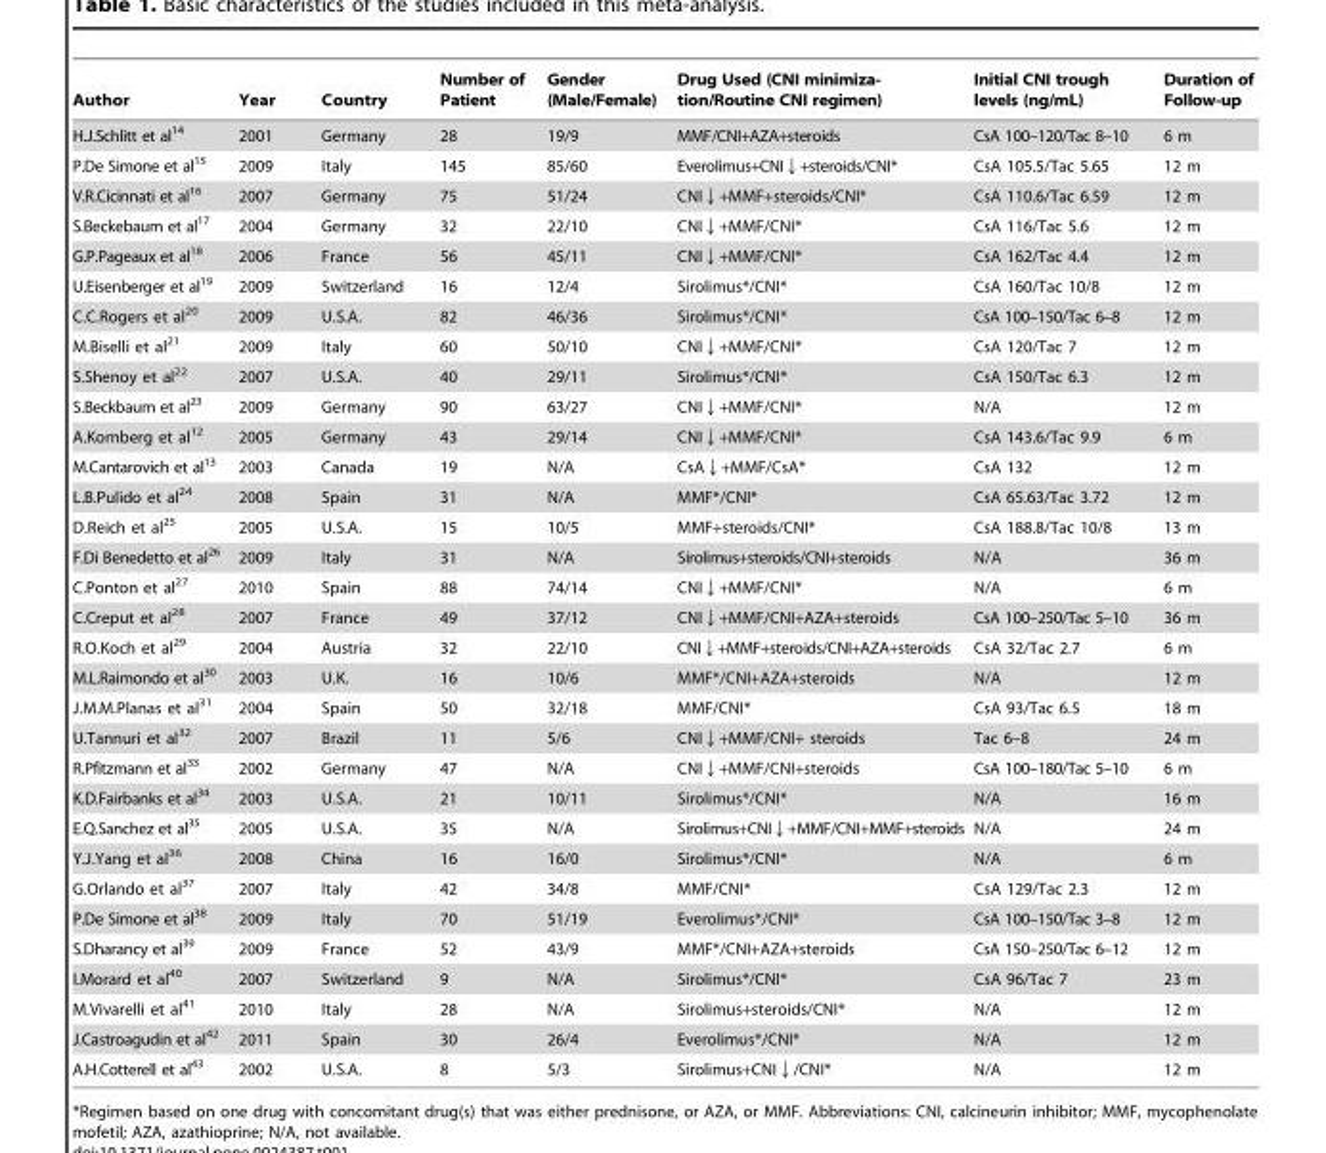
<table><thead><tr><td>Author</td><td>Year</td><td>Country</td><td>Number of Patient</td><td>Gender (Male/Female)</td><td>Drug Used (CNI minimiza- tion/Routine CNI regimen)</td><td>Initial CNI trough levels (ng/mL)</td><td>Duration of Follow-up</td></tr></thead><tbody><tr><td>H.J.Schlitt et al<sup>14</sup></td><td>2001</td><td>Germany</td><td>28</td><td>19/9</td><td>MMF/CNI+AZA+steroids</td><td>CsA 100–120/Tac 8–10</td><td>6 m</td></tr><tr><td>P.De Simone et al<sup>15</sup></td><td>2009</td><td>Italy</td><td>145</td><td>85/60</td><td>Everolimus+CNI↓+steroids/CNI*</td><td>CsA 105.5/Tac 5.65</td><td>12 m</td></tr><tr><td>V.R.Cicinnati et al<sup>16</sup></td><td>2007</td><td>Germany</td><td>75</td><td>51/24</td><td>CNI↓+MMF+steroids/CNI*</td><td>CsA 110.6/Tac 6.59</td><td>12 m</td></tr><tr><td>S.Beckebaum et al<sup>17</sup></td><td>2004</td><td>Germany</td><td>32</td><td>22/10</td><td>CNI↓+MMF/CNI*</td><td>CsA 116/Tac 5.6</td><td>12 m</td></tr><tr><td>G.P.Pageaux et al<sup>18</sup></td><td>2006</td><td>France</td><td>56</td><td>45/11</td><td>CNI↓+MMF/CNI*</td><td>CsA 162/Tac 4.4</td><td>12 m</td></tr><tr><td>U.Eisenberger et al<sup>19</sup></td><td>2009</td><td>Switzerland</td><td>16</td><td>12/4</td><td>Sirolimus*/CNI*</td><td>CsA 160/Tac 10/8</td><td>12 m</td></tr><tr><td>C.C.Rogers et al<sup>20</sup></td><td>2009</td><td>U.S.A.</td><td>82</td><td>46/36</td><td>Sirolimus*/CNI*</td><td>CsA 100–150/Tac 6–8</td><td>12 m</td></tr><tr><td>M.Biselli et al<sup>21</sup></td><td>2009</td><td>Italy</td><td>60</td><td>50/10</td><td>CNI↓+MMF/CNI*</td><td>CsA 120/Tac 7</td><td>12 m</td></tr><tr><td>S.Shenoy et al<sup>22</sup></td><td>2007</td><td>U.S.A.</td><td>40</td><td>29/11</td><td>Sirolimus*/CNI*</td><td>CsA 150/Tac 6.3</td><td>12 m</td></tr><tr><td>S.Beckbaum et al<sup>23</sup></td><td>2009</td><td>Germany</td><td>90</td><td>63/27</td><td>CNI↓+MMF/CNI*</td><td>N/A</td><td>12 m</td></tr><tr><td>A.Kornberg et al<sup>12</sup></td><td>2005</td><td>Germany</td><td>43</td><td>29/14</td><td>CNI↓+MMF/CNI*</td><td>CsA 143.6/Tac 9.9</td><td>6 m</td></tr><tr><td>M.Cantarovich et al<sup>13</sup></td><td>2003</td><td>Canada</td><td>19</td><td>N/A</td><td>CsA↓+MMF/CsA*</td><td>CsA 132</td><td>12 m</td></tr><tr><td>L.B.Pulido et al<sup>24</sup></td><td>2008</td><td>Spain</td><td>31</td><td>N/A</td><td>MMF*/CNI*</td><td>CsA 65.63/Tac 3.72</td><td>12 m</td></tr><tr><td>D.Reich et al<sup>25</sup></td><td>2005</td><td>U.S.A.</td><td>15</td><td>10/5</td><td>MMF+steroids/CNI*</td><td>CsA 188.8/Tac 10/8</td><td>13 m</td></tr><tr><td>F.Di Benedetto et al<sup>26</sup></td><td>2009</td><td>Italy</td><td>31</td><td>N/A</td><td>Sirolimus+steroids/CNI+steroids</td><td>N/A</td><td>36 m</td></tr><tr><td>C.Ponton et al<sup>27</sup></td><td>2010</td><td>Spain</td><td>88</td><td>74/14</td><td>CNI↓+MMF/CNI*</td><td>N/A</td><td>6 m</td></tr><tr><td>C.Creput et al<sup>28</sup></td><td>2007</td><td>France</td><td>49</td><td>37/12</td><td>CNI↓+MMF/CNI+AZA+steroids</td><td>CsA 100–250/Tac 5–10</td><td>36 m</td></tr><tr><td>R.O.Koch et al<sup>29</sup></td><td>2004</td><td>Austria</td><td>32</td><td>22/10</td><td>CNI↓+MMF+steroids/CNI+AZA+steroids</td><td>CsA 32/Tac 2.7</td><td>6 m</td></tr><tr><td>M.L.Raimondo et al<sup>30</sup></td><td>2003</td><td>U.K.</td><td>16</td><td>10/6</td><td>MMF*/CNI+AZA+steroids</td><td>N/A</td><td>12 m</td></tr><tr><td>J.M.M.Planas et al<sup>31</sup></td><td>2004</td><td>Spain</td><td>50</td><td>32/18</td><td>MMF/CNI*</td><td>CsA 93/Tac 6.5</td><td>18 m</td></tr><tr><td>U.Tannuri et al<sup>32</sup></td><td>2007</td><td>Brazil</td><td>11</td><td>5/6</td><td>CNI↓+MMF/CNI+ steroids</td><td>Tac 6–8</td><td>24 m</td></tr><tr><td>R.Pfitzmann et al<sup>33</sup></td><td>2002</td><td>Germany</td><td>47</td><td>N/A</td><td>CNI↓+MMF/CNI+steroids</td><td>CsA 100–180/Tac 5–10</td><td>6 m</td></tr><tr><td>K.D.Fairbanks et al<sup>34</sup></td><td>2003</td><td>U.S.A.</td><td>21</td><td>10/11</td><td>Sirolimus*/CNI*</td><td>N/A</td><td>16 m</td></tr><tr><td>E.Q.Sanchez et al<sup>35</sup></td><td>2005</td><td>U.S.A.</td><td>35</td><td>N/A</td><td>Sirolimus+CNI↓+MMF/CNI+MMF+steroids</td><td>N/A</td><td>24 m</td></tr><tr><td>Y.J.Yang et al<sup>36</sup></td><td>2008</td><td>China</td><td>16</td><td>16/0</td><td>Sirolimus*/CNI*</td><td>N/A</td><td>6 m</td></tr><tr><td>G.Orlando et al<sup>37</sup></td><td>2007</td><td>Italy</td><td>42</td><td>34/8</td><td>MMF/CNI*</td><td>CsA 129/Tac 2.3</td><td>12 m</td></tr><tr><td>P.De Simone et al<sup>38</sup></td><td>2009</td><td>Italy</td><td>70</td><td>51/19</td><td>Everolimus*/CNI*</td><td>CsA 100–150/Tac 3–8</td><td>12 m</td></tr><tr><td>S.Dharancy et al<sup>39</sup></td><td>2009</td><td>France</td><td>52</td><td>43/9</td><td>MMF*/CNI+AZA+steroids</td><td>CsA 150–250/Tac 6–12</td><td>12 m</td></tr><tr><td>I.Morard et al<sup>40</sup></td><td>2007</td><td>Switzerland</td><td>9</td><td>N/A</td><td>Sirolimus*/CNI*</td><td>CsA 96/Tac 7</td><td>23 m</td></tr><tr><td>M.Vivarelli et al<sup>41</sup></td><td>2010</td><td>Italy</td><td>28</td><td>N/A</td><td>Sirolimus+steroids/CNI*</td><td>N/A</td><td>12 m</td></tr><tr><td>J.Castroagudin et al<sup>42</sup></td><td>2011</td><td>Spain</td><td>30</td><td>26/4</td><td>Everolimus*/CNI*</td><td>N/A</td><td>12 m</td></tr><tr><td>A.H.Cotterell et al<sup>43</sup></td><td>2002</td><td>U.S.A.</td><td>8</td><td>5/3</td><td>Sirolimus+CNI↓/CNI*</td><td>N/A</td><td>12 m</td></tr></tbody></table>